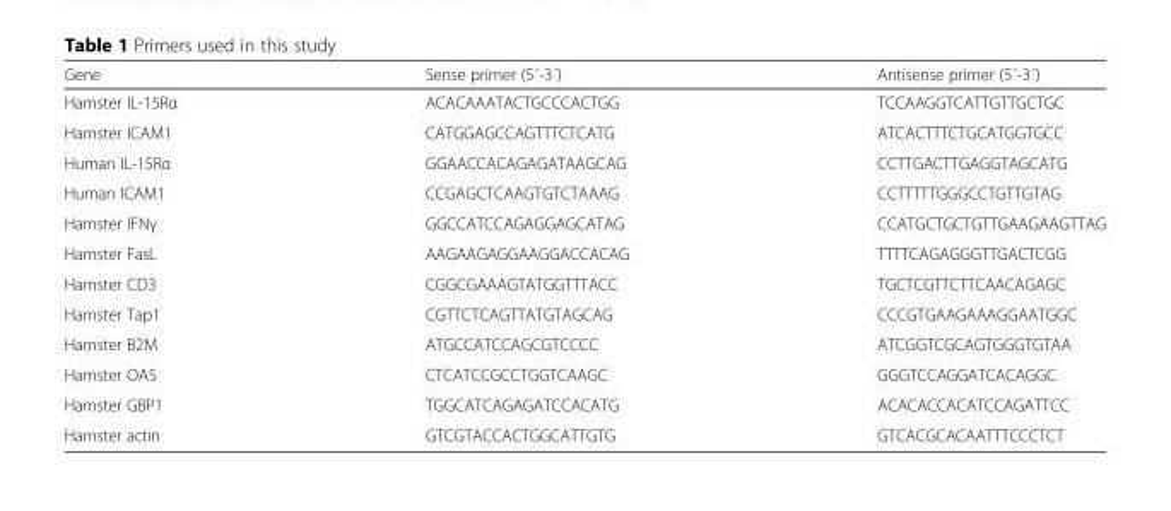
<table><thead><tr><td>Gene</td><td>Sense primer (5´-3´)</td><td>Antisense primer (5´-3´)</td></tr></thead><tbody><tr><td>Hamster IL-15Rα</td><td>ACACAAATACTGCCCACTGG</td><td>TCCAAGGTCATTGTTGCTGC</td></tr><tr><td>Hamster ICAM1</td><td>CATGGAGCCAGTTTCTCATG</td><td>ATCACTTTCTGCATGGTGCC</td></tr><tr><td>Human IL-15Rα</td><td>GGAACCACAGAGATAAGCAG</td><td>CCTTGACTTGAGGTAGCATG</td></tr><tr><td>Human ICAM1</td><td>CCGAGCTCAAGTGTCTAAAG</td><td>CCTTTTTGGGCCTGTTGTAG</td></tr><tr><td>Hamster IFNγ</td><td>GGCCATCCAGAGGAGCATAG</td><td>CCATGCTGCTGTTGAAGAAGTTAG</td></tr><tr><td>Hamster FasL</td><td>AAGAAGAGGAAGGACCACAG</td><td>TTTTCAGAGGGTTGACTCGG</td></tr><tr><td>Hamster CD3</td><td>CGGCGAAAGTATGGTTTACC</td><td>TGCTCGTTCTTCAACAGAGC</td></tr><tr><td>Hamster Tap1</td><td>CGTTCTCAGTTATGTAGCAG</td><td>CCCGTGAAGAAAGGAATGGC</td></tr><tr><td>Hamster B2M</td><td>ATGCCATCCAGCGTCCCC</td><td>ATCGGTCGCAGTGGGTGTAA</td></tr><tr><td>Hamster OAS</td><td>CTCATCCGCCTGGTCAAGC</td><td>GGGTCCAGGATCACAGGC</td></tr><tr><td>Hamster GBP1</td><td>TGGCATCAGAGATCCACATG</td><td>ACACACCACATCCAGATTCC</td></tr><tr><td>Hamster actin</td><td>GTCGTACCACTGGCATTGTG</td><td>GTCACGCACAATTTCCCTCT</td></tr></tbody></table>